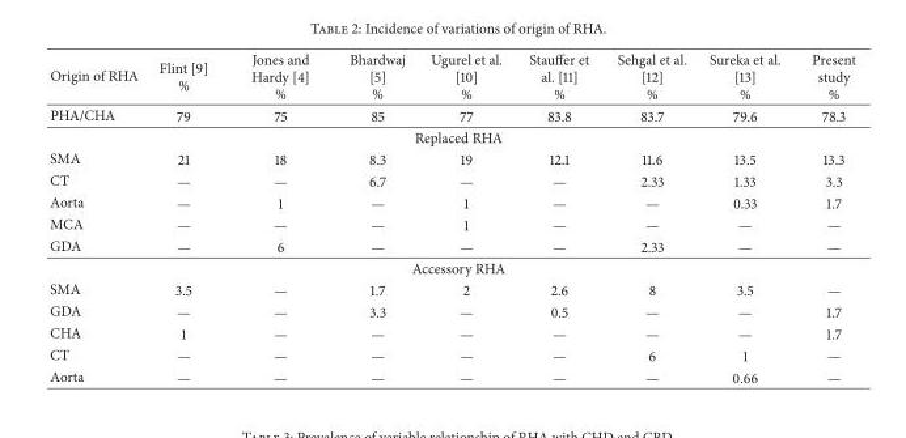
<table><thead><tr><td>Origin of RHA</td><td>Flint [9] %</td><td>Jones and Hardy [4] %</td><td>Bhardwaj [5] %</td><td>Ugurel et al. [10] %</td><td>Stauffer et al. [11] %</td><td>Sehgal et al. [12] %</td><td>Sureka et al. [13] %</td><td>Present study %</td></tr></thead><tbody><tr><td>PHA/CHA</td><td>79</td><td>75</td><td>85</td><td>77</td><td>83.8</td><td>83.7</td><td>79.6</td><td>78.3</td></tr><tr><td colspan="9">Replaced RHA</td></tr><tr><td>SMA</td><td>21</td><td>18</td><td>8.3</td><td>19</td><td>12.1</td><td>11.6</td><td>13.5</td><td>13.3</td></tr><tr><td>CT</td><td>—</td><td>—</td><td>6.7</td><td>—</td><td>—</td><td>2.33</td><td>1.33</td><td>3.3</td></tr><tr><td>Aorta</td><td>—</td><td>1</td><td>—</td><td>1</td><td>—</td><td>—</td><td>0.33</td><td>1.7</td></tr><tr><td>MCA</td><td>—</td><td>—</td><td>—</td><td>1</td><td>—</td><td>—</td><td>—</td><td>—</td></tr><tr><td>GDA</td><td>—</td><td>6</td><td>—</td><td>—</td><td>—</td><td>2.33</td><td>—</td><td>—</td></tr><tr><td colspan="9">Accessory RHA</td></tr><tr><td>SMA</td><td>3.5</td><td>—</td><td>1.7</td><td>2</td><td>2.6</td><td>8</td><td>3.5</td><td>—</td></tr><tr><td>GDA</td><td>—</td><td>—</td><td>3.3</td><td>—</td><td>0.5</td><td>—</td><td>—</td><td>1.7</td></tr><tr><td>CHA</td><td>1</td><td>—</td><td>—</td><td>—</td><td>—</td><td>—</td><td>—</td><td>1.7</td></tr><tr><td>CT</td><td>—</td><td>—</td><td>—</td><td>—</td><td>—</td><td>6</td><td>1</td><td>—</td></tr><tr><td>Aorta</td><td>—</td><td>—</td><td>—</td><td>—</td><td>—</td><td>—</td><td>0.66</td><td>—</td></tr></tbody></table>